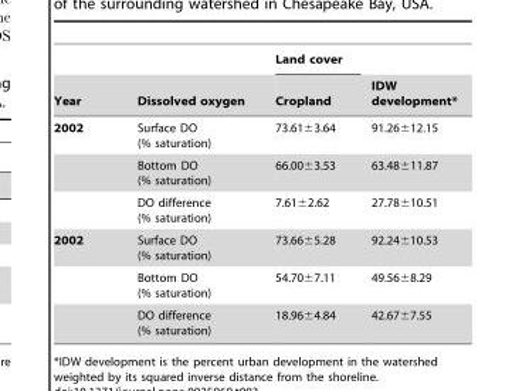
<table><thead><tr><td rowspan="2">Year</td><td rowspan="2">Dissolved oxygen</td><td rowspan="2">Land cover Cropland</td><td rowspan="2">IDW development*</td></tr><tr></tr></thead><tbody><tr><td rowspan="3">2002</td><td>Surface DO (% saturation)</td><td>73.61±3.64</td><td>91.26±12.15</td></tr><tr><td>Bottom DO (% saturation)</td><td>66.00±3.53</td><td>63.48±11.87</td></tr><tr><td>DO difference (% saturation)</td><td>7.61±2.62</td><td>27.78±10.51</td></tr><tr><td rowspan="3">2002</td><td>Surface DO (% saturation)</td><td>73.66±5.28</td><td>92.24±10.53</td></tr><tr><td>Bottom DO (% saturation)</td><td>54.70±7.11</td><td>49.56±8.29</td></tr><tr><td>DO difference (% saturation)</td><td>18.96±4.84</td><td>42.67±7.55</td></tr></tbody></table>